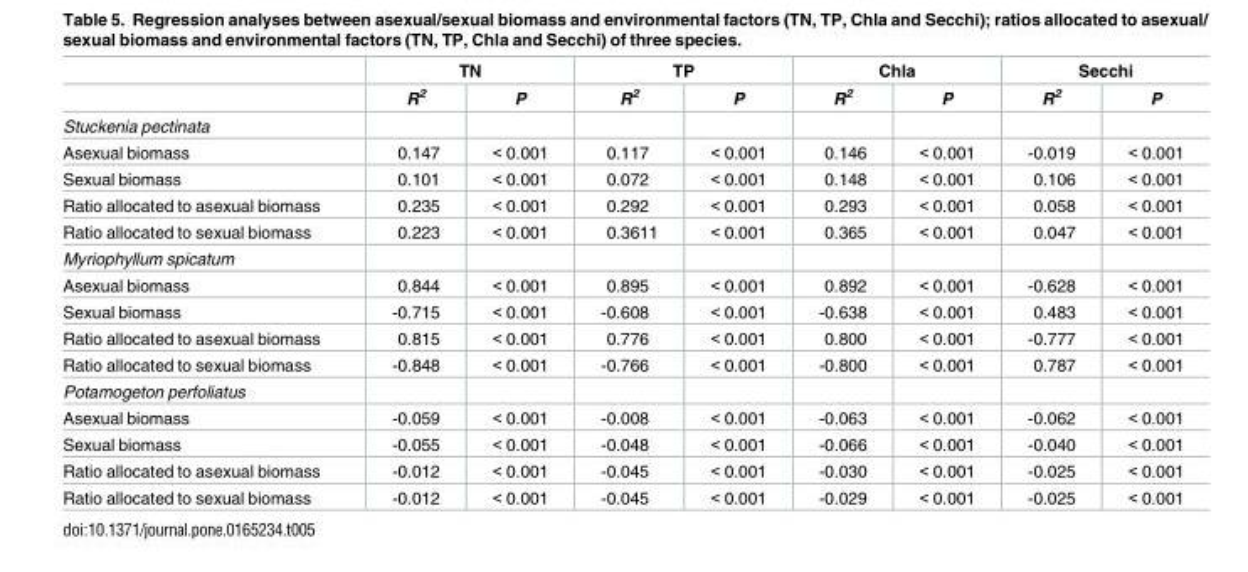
<table><thead><tr><td rowspan="2"></td><td colspan="2">TN</td><td colspan="2">TP</td><td colspan="2">Chla</td><td colspan="2">Secchi</td></tr><tr><td>R<sup>2</sup></td><td>P</td><td>R<sup>2</sup></td><td>P</td><td>R<sup>2</sup></td><td>P</td><td>R<sup>2</sup></td><td>P</td></tr></thead><tbody><tr><td colspan="9">Stuckenia pectinata</td></tr><tr><td>Asexual biomass</td><td>0.147</td><td>&lt; 0.001</td><td>0.117</td><td>&lt; 0.001</td><td>0.146</td><td>&lt; 0.001</td><td>-0.019</td><td>&lt; 0.001</td></tr><tr><td>Sexual biomass</td><td>0.101</td><td>&lt; 0.001</td><td>0.072</td><td>&lt; 0.001</td><td>0.148</td><td>&lt; 0.001</td><td>0.106</td><td>&lt; 0.001</td></tr><tr><td>Ratio allocated to asexual biomass</td><td>0.235</td><td>&lt; 0.001</td><td>0.292</td><td>&lt; 0.001</td><td>0.293</td><td>&lt; 0.001</td><td>0.058</td><td>&lt; 0.001</td></tr><tr><td>Ratio allocated to sexual biomass</td><td>0.223</td><td>&lt; 0.001</td><td>0.3611</td><td>&lt; 0.001</td><td>0.365</td><td>&lt; 0.001</td><td>0.047</td><td>&lt; 0.001</td></tr><tr><td colspan="9">Myriophyllum spicatum</td></tr><tr><td>Asexual biomass</td><td>0.844</td><td>&lt; 0.001</td><td>0.895</td><td>&lt; 0.001</td><td>0.892</td><td>&lt; 0.001</td><td>-0.628</td><td>&lt; 0.001</td></tr><tr><td>Sexual biomass</td><td>-0.715</td><td>&lt; 0.001</td><td>-0.608</td><td>&lt; 0.001</td><td>-0.638</td><td>&lt; 0.001</td><td>0.483</td><td>&lt; 0.001</td></tr><tr><td>Ratio allocated to asexual biomass</td><td>0.815</td><td>&lt; 0.001</td><td>0.776</td><td>&lt; 0.001</td><td>0.800</td><td>&lt; 0.001</td><td>-0.777</td><td>&lt; 0.001</td></tr><tr><td>Ratio allocated to sexual biomass</td><td>-0.848</td><td>&lt; 0.001</td><td>-0.766</td><td>&lt; 0.001</td><td>-0.800</td><td>&lt; 0.001</td><td>0.787</td><td>&lt; 0.001</td></tr><tr><td colspan="9">Potamogeton perfoliatus</td></tr><tr><td>Asexual biomass</td><td>-0.059</td><td>&lt; 0.001</td><td>-0.008</td><td>&lt; 0.001</td><td>-0.063</td><td>&lt; 0.001</td><td>-0.062</td><td>&lt; 0.001</td></tr><tr><td>Sexual biomass</td><td>-0.055</td><td>&lt; 0.001</td><td>-0.048</td><td>&lt; 0.001</td><td>-0.066</td><td>&lt; 0.001</td><td>-0.040</td><td>&lt; 0.001</td></tr><tr><td>Ratio allocated to asexual biomass</td><td>-0.012</td><td>&lt; 0.001</td><td>-0.045</td><td>&lt; 0.001</td><td>-0.030</td><td>&lt; 0.001</td><td>-0.025</td><td>&lt; 0.001</td></tr><tr><td>Ratio allocated to sexual biomass</td><td>-0.012</td><td>&lt; 0.001</td><td>-0.045</td><td>&lt; 0.001</td><td>-0.029</td><td>&lt; 0.001</td><td>-0.025</td><td>&lt; 0.001</td></tr></tbody></table>